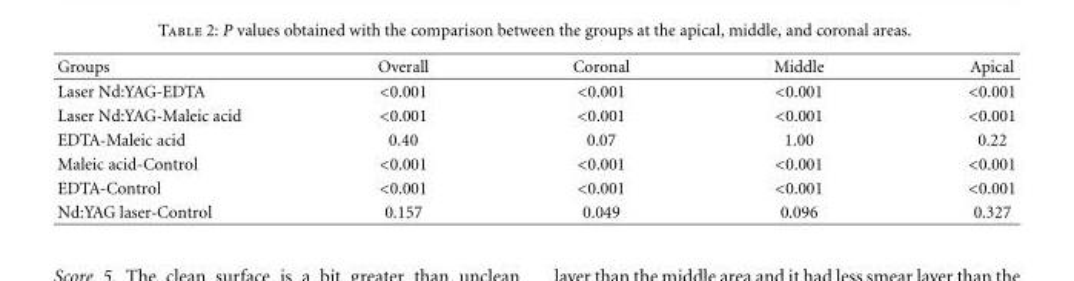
<table><thead><tr><td>Groups</td><td>Overall</td><td>Coronal</td><td>Middle</td><td>Apical</td></tr></thead><tbody><tr><td>Laser Nd:YAG-EDTA</td><td>&lt;0.001</td><td>&lt;0.001</td><td>&lt;0.001</td><td>&lt;0.001</td></tr><tr><td>Laser Nd:YAG-Maleic acid</td><td>&lt;0.001</td><td>&lt;0.001</td><td>&lt;0.001</td><td>&lt;0.001</td></tr><tr><td>EDTA-Maleic acid</td><td>0.40</td><td>0.07</td><td>1.00</td><td>0.22</td></tr><tr><td>Maleic acid-Control</td><td>&lt;0.001</td><td>&lt;0.001</td><td>&lt;0.001</td><td>&lt;0.001</td></tr><tr><td>EDTA-Control</td><td>&lt;0.001</td><td>&lt;0.001</td><td>&lt;0.001</td><td>&lt;0.001</td></tr><tr><td>Nd:YAG laser-Control</td><td>0.157</td><td>0.049</td><td>0.096</td><td>0.327</td></tr></tbody></table>